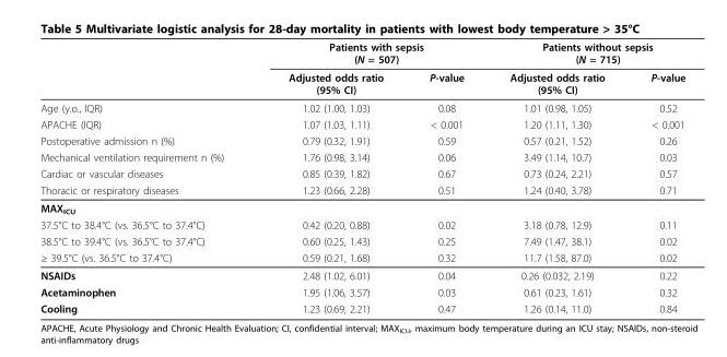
<table><thead><tr><td rowspan="2"></td><td colspan="2">Patients with sepsis (N = 507)</td><td colspan="2">Patients without sepsis (N = 715)</td></tr><tr><td>Adjusted odds ratio (95% CI)</td><td>P-value</td><td>Adjusted odds ratio (95% CI)</td><td>P-value</td></tr></thead><tbody><tr><td>Age (y.o., IQR)</td><td>1.02 (1.00, 1.03)</td><td>0.08</td><td>1.01 (0.98, 1.05)</td><td>0.52</td></tr><tr><td>APACHE (IQR)</td><td>1.07 (1.03, 1.11)</td><td>&lt; 0.001</td><td>1.20 (1.11, 1.30)</td><td>&lt; 0.001</td></tr><tr><td>Postoperative admission n (%)</td><td>0.79 (0.32, 1.91)</td><td>0.59</td><td>0.57 (0.21, 1.52)</td><td>0.26</td></tr><tr><td>Mechanical ventilation requirement n (%)</td><td>1.76 (0.98, 3.14)</td><td>0.06</td><td>3.49 (1.14, 10.7)</td><td>0.03</td></tr><tr><td>Cardiac or vascular diseases</td><td>0.85 (0.39, 1.82)</td><td>0.67</td><td>0.73 (0.24, 2.21)</td><td>0.57</td></tr><tr><td>Thoracic or respiratory diseases</td><td>1.23 (0.66, 2.28)</td><td>0.51</td><td>1.24 (0.40, 3.78)</td><td>0.71</td></tr><tr><td colspan="5">MAX<sub>ICU</sub></td></tr><tr><td>37.5°C to 38.4°C (vs. 36.5°C to 37.4°C)</td><td>0.42 (0.20, 0.88)</td><td>0.02</td><td>3.18 (0.78, 12.9)</td><td>0.11</td></tr><tr><td>38.5°C to 39.4°C (vs. 36.5°C to 37.4°C)</td><td>0.60 (0.25, 1.43)</td><td>0.25</td><td>7.49 (1.47, 38.1)</td><td>0.02</td></tr><tr><td>≥ 39.5°C (vs. 36.5°C to 37.4°C)</td><td>0.59 (0.21, 1.68)</td><td>0.32</td><td>11.7 (1.58, 87.0)</td><td>0.02</td></tr><tr><td>NSAIDs</td><td>2.48 (1.02, 6.01)</td><td>0.04</td><td>0.26 (0.032, 2.19)</td><td>0.22</td></tr><tr><td>Acetaminophen</td><td>1.95 (1.06, 3.57)</td><td>0.03</td><td>0.61 (0.23, 1.61)</td><td>0.32</td></tr><tr><td>Cooling</td><td>1.23 (0.69, 2.21)</td><td>0.47</td><td>1.26 (0.14, 11.0)</td><td>0.84</td></tr></tbody></table>